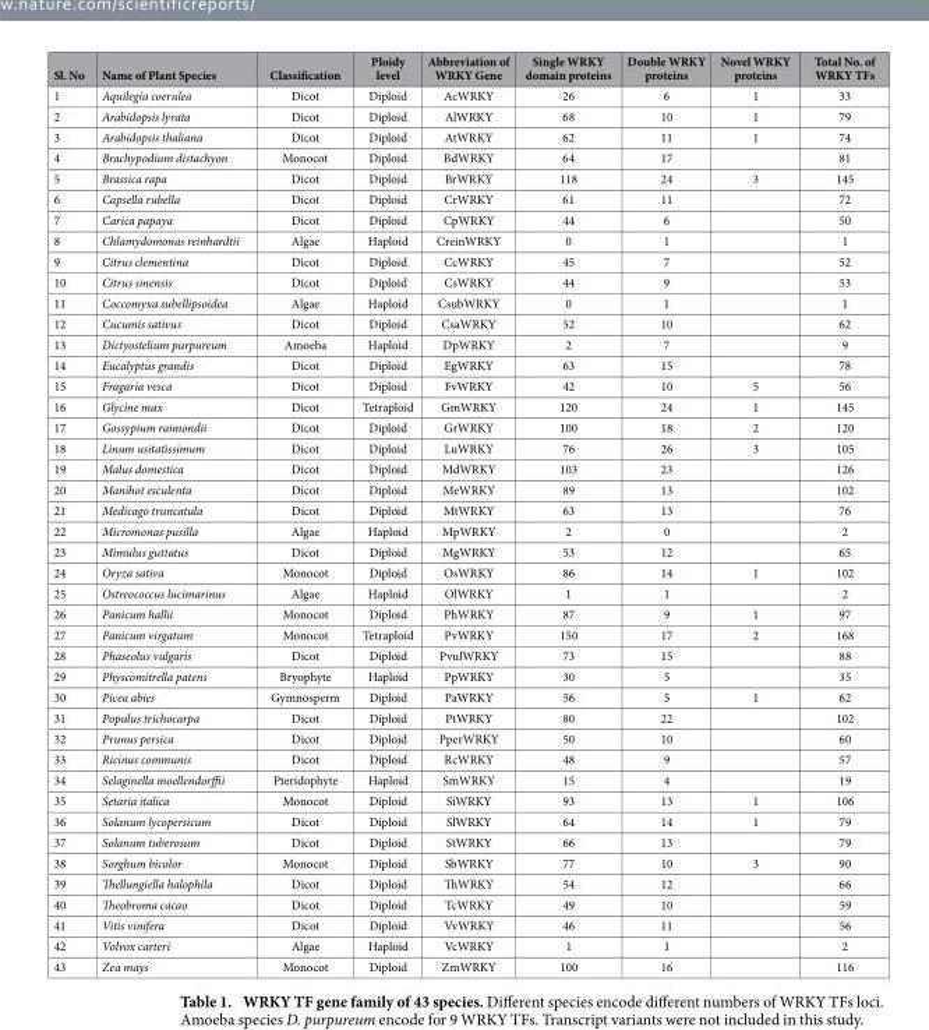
<table><thead><tr><td>Sl. No</td><td>Name of Plant Species</td><td>Classification</td><td>Ploidy level</td><td>Abbreviation of WRKY Gene</td><td>Single WRKY domain proteins</td><td>Double WRKY proteins</td><td>Novel WRKY proteins</td><td>Total No. of WRKY TFs</td></tr></thead><tbody><tr><td>1</td><td>Aquilegia coerulea</td><td>Dicot</td><td>Diploid</td><td>AcWRKY</td><td>26</td><td>6</td><td>1</td><td>33</td></tr><tr><td>2</td><td>Arabidopsis lyrata</td><td>Dicot</td><td>Diploid</td><td>AlWRKY</td><td>68</td><td>10</td><td>1</td><td>79</td></tr><tr><td>3</td><td>Arabidopsis thaliana</td><td>Dicot</td><td>Diploid</td><td>AtWRKY</td><td>62</td><td>11</td><td>1</td><td>74</td></tr><tr><td>4</td><td>Brachypodium distachyon</td><td>Monocot</td><td>Diploid</td><td>BdWRKY</td><td>64</td><td>17</td><td></td><td>81</td></tr><tr><td>5</td><td>Brassica rapa</td><td>Dicot</td><td>Diploid</td><td>BrWRKY</td><td>118</td><td>24</td><td>3</td><td>145</td></tr><tr><td>6</td><td>Capsella rubella</td><td>Dicot</td><td>Diploid</td><td>CrWRKY</td><td>61</td><td>11</td><td></td><td>72</td></tr><tr><td>7</td><td>Carica papaya</td><td>Dicot</td><td>Diploid</td><td>CpWRKY</td><td>44</td><td>6</td><td></td><td>50</td></tr><tr><td>8</td><td>Chlamydomonas reinhardtii</td><td>Algae</td><td>Haploid</td><td>CreinWRKY</td><td>0</td><td>1</td><td></td><td>1</td></tr><tr><td>9</td><td>Citrus clementina</td><td>Dicot</td><td>Diploid</td><td>CcWRKY</td><td>45</td><td>7</td><td></td><td>52</td></tr><tr><td>10</td><td>Citrus sinensis</td><td>Dicot</td><td>Diploid</td><td>CsWRKY</td><td>44</td><td>9</td><td></td><td>53</td></tr><tr><td>11</td><td>Coccomyxa subellipsoidea</td><td>Algae</td><td>Haploid</td><td>CsubWRKY</td><td>0</td><td>1</td><td></td><td>1</td></tr><tr><td>12</td><td>Cucumis sativus</td><td>Dicot</td><td>Diploid</td><td>CsaWRKY</td><td>52</td><td>10</td><td></td><td>62</td></tr><tr><td>13</td><td>Dictyostelium purpureum</td><td>Amoeba</td><td>Haploid</td><td>DpWRKY</td><td>2</td><td>7</td><td></td><td>9</td></tr><tr><td>14</td><td>Eucalyptus grandis</td><td>Dicot</td><td>Diploid</td><td>EgWRKY</td><td>63</td><td>15</td><td></td><td>78</td></tr><tr><td>15</td><td>Fragaria vesca</td><td>Dicot</td><td>Diploid</td><td>FvWRKY</td><td>42</td><td>10</td><td>5</td><td>56</td></tr><tr><td>16</td><td>Glycine max</td><td>Dicot</td><td>Tetraploid</td><td>GmWRKY</td><td>120</td><td>24</td><td>1</td><td>145</td></tr><tr><td>17</td><td>Gossypium raimondii</td><td>Dicot</td><td>Diploid</td><td>GrWRKY</td><td>100</td><td>18</td><td>2</td><td>120</td></tr><tr><td>18</td><td>Linum usitatissimum</td><td>Dicot</td><td>Diploid</td><td>LuWRKY</td><td>76</td><td>26</td><td>3</td><td>105</td></tr><tr><td>19</td><td>Malus domestica</td><td>Dicot</td><td>Diploid</td><td>MdWRKY</td><td>103</td><td>23</td><td></td><td>126</td></tr><tr><td>20</td><td>Manihot esculenta</td><td>Dicot</td><td>Diploid</td><td>MeWRKY</td><td>89</td><td>13</td><td></td><td>102</td></tr><tr><td>21</td><td>Medicago truncatula</td><td>Dicot</td><td>Diploid</td><td>MtWRKY</td><td>63</td><td>13</td><td></td><td>76</td></tr><tr><td>22</td><td>Micromonas pusilla</td><td>Algae</td><td>Haploid</td><td>MpWRKY</td><td>2</td><td>0</td><td></td><td>2</td></tr><tr><td>23</td><td>Mimulus guttatus</td><td>Dicot</td><td>Diploid</td><td>MgWRKY</td><td>53</td><td>12</td><td></td><td>65</td></tr><tr><td>24</td><td>Oryza sativa</td><td>Monocot</td><td>Diploid</td><td>OsWRKY</td><td>86</td><td>14</td><td>1</td><td>102</td></tr><tr><td>25</td><td>Ostreococcus lucimarinus</td><td>Algae</td><td>Haploid</td><td>OlWRKY</td><td>1</td><td>1</td><td></td><td>2</td></tr><tr><td>26</td><td>Panicum hallii</td><td>Monocot</td><td>Diploid</td><td>PhWRKY</td><td>87</td><td>9</td><td>1</td><td>97</td></tr><tr><td>27</td><td>Panicum virgatum</td><td>Monocot</td><td>Tetraploid</td><td>PvWRKY</td><td>150</td><td>17</td><td>2</td><td>168</td></tr><tr><td>28</td><td>Phaseolus vulgaris</td><td>Dicot</td><td>Diploid</td><td>PvulWRKY</td><td>73</td><td>15</td><td></td><td>88</td></tr><tr><td>29</td><td>Physcomitrella patens</td><td>Bryophyte</td><td>Haploid</td><td>PpWRKY</td><td>30</td><td>5</td><td></td><td>35</td></tr><tr><td>30</td><td>Picea abies</td><td>Gymnosperm</td><td>Diploid</td><td>PaWRKY</td><td>56</td><td>5</td><td>1</td><td>62</td></tr><tr><td>31</td><td>Populus trichocarpa</td><td>Dicot</td><td>Diploid</td><td>PtWRKY</td><td>80</td><td>22</td><td></td><td>102</td></tr><tr><td>32</td><td>Prunus persica</td><td>Dicot</td><td>Diploid</td><td>PperWRKY</td><td>50</td><td>10</td><td></td><td>60</td></tr><tr><td>33</td><td>Ricinus communis</td><td>Dicot</td><td>Diploid</td><td>RcWRKY</td><td>48</td><td>9</td><td></td><td>57</td></tr><tr><td>34</td><td>Selaginella moellendorffii</td><td>Pteridophyte</td><td>Haploid</td><td>SmWRKY</td><td>15</td><td>4</td><td></td><td>19</td></tr><tr><td>35</td><td>Setaria italica</td><td>Monocot</td><td>Diploid</td><td>SiWRKY</td><td>93</td><td>13</td><td>1</td><td>106</td></tr><tr><td>36</td><td>Solanum lycopersicum</td><td>Dicot</td><td>Diploid</td><td>SlWRKY</td><td>64</td><td>14</td><td>1</td><td>79</td></tr><tr><td>37</td><td>Solanum tuberosum</td><td>Dicot</td><td>Diploid</td><td>StWRKY</td><td>66</td><td>13</td><td></td><td>79</td></tr><tr><td>38</td><td>Sorghum bicolor</td><td>Monocot</td><td>Diploid</td><td>SbWRKY</td><td>77</td><td>10</td><td>3</td><td>90</td></tr><tr><td>39</td><td>Thellungiella halophila</td><td>Dicot</td><td>Diploid</td><td>ThWRKY</td><td>54</td><td>12</td><td></td><td>66</td></tr><tr><td>40</td><td>Theobroma cacao</td><td>Dicot</td><td>Diploid</td><td>TcWRKY</td><td>49</td><td>10</td><td></td><td>59</td></tr><tr><td>41</td><td>Vitis vinifera</td><td>Dicot</td><td>Diploid</td><td>VvWRKY</td><td>46</td><td>11</td><td></td><td>56</td></tr><tr><td>42</td><td>Volvox carteri</td><td>Algae</td><td>Haploid</td><td>VcWRKY</td><td>1</td><td>1</td><td></td><td>2</td></tr><tr><td>43</td><td>Zea mays</td><td>Monocot</td><td>Diploid</td><td>ZmWRKY</td><td>100</td><td>16</td><td></td><td>116</td></tr></tbody></table>